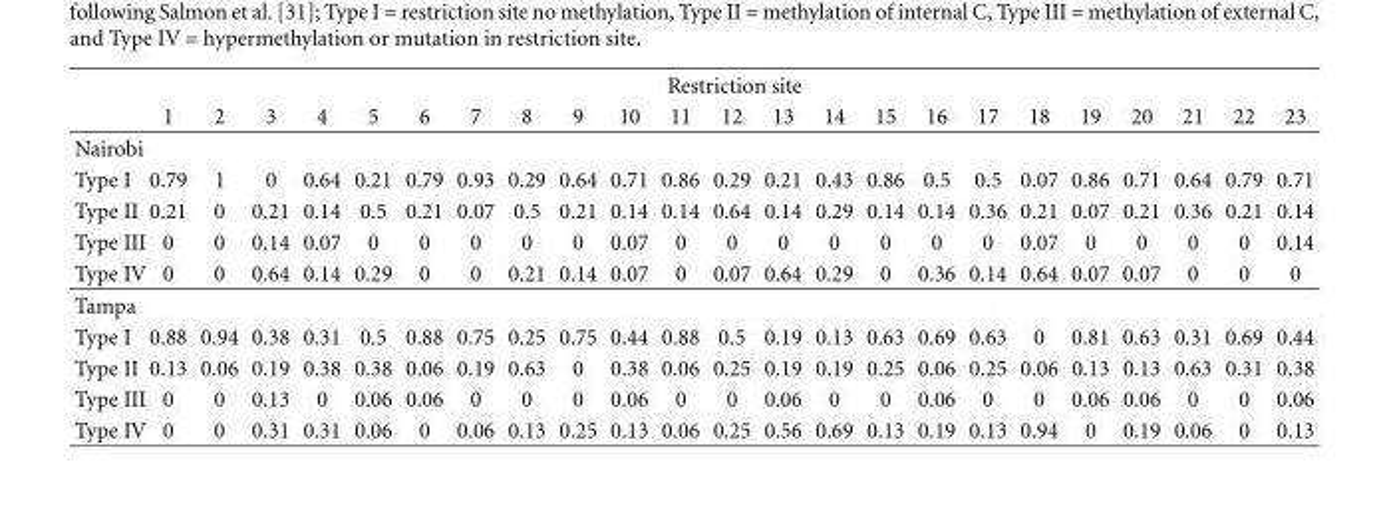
<table><thead><tr><td rowspan="2"></td><td colspan="23">Restriction site</td></tr><tr><td>1</td><td>2</td><td>3</td><td>4</td><td>5</td><td>6</td><td>7</td><td>8</td><td>9</td><td>10</td><td>11</td><td>12</td><td>13</td><td>14</td><td>15</td><td>16</td><td>17</td><td>18</td><td>19</td><td>20</td><td>21</td><td>22</td><td>23</td></tr></thead><tbody><tr><td colspan="24">Nairobi</td></tr><tr><td>Type I</td><td>0.79</td><td>1</td><td>0</td><td>0.64</td><td>0.21</td><td>0.79</td><td>0.93</td><td>0.29</td><td>0.64</td><td>0.71</td><td>0.86</td><td>0.29</td><td>0.21</td><td>0.43</td><td>0.86</td><td>0.5</td><td>0.5</td><td>0.07</td><td>0.86</td><td>0.71</td><td>0.64</td><td>0.79</td><td>0.71</td></tr><tr><td>Type II</td><td>0.21</td><td>0</td><td>0.21</td><td>0.14</td><td>0.5</td><td>0.21</td><td>0.07</td><td>0.5</td><td>0.21</td><td>0.14</td><td>0.14</td><td>0.64</td><td>0.14</td><td>0.29</td><td>0.14</td><td>0.14</td><td>0.36</td><td>0.21</td><td>0.07</td><td>0.21</td><td>0.36</td><td>0.21</td><td>0.14</td></tr><tr><td>Type III</td><td>0</td><td>0</td><td>0.14</td><td>0.07</td><td>0</td><td>0</td><td>0</td><td>0</td><td>0</td><td>0.07</td><td>0</td><td>0</td><td>0</td><td>0</td><td>0</td><td>0</td><td>0</td><td>0.07</td><td>0</td><td>0</td><td>0</td><td>0</td><td>0.14</td></tr><tr><td>Type IV</td><td>0</td><td>0</td><td>0.64</td><td>0.14</td><td>0.29</td><td>0</td><td>0</td><td>0.21</td><td>0.14</td><td>0.07</td><td>0</td><td>0.07</td><td>0.64</td><td>0.29</td><td>0</td><td>0.36</td><td>0.14</td><td>0.64</td><td>0.07</td><td>0.07</td><td>0</td><td>0</td><td>0</td></tr><tr><td colspan="24">Tampa</td></tr><tr><td>Type I</td><td>0.88</td><td>0.94</td><td>0.38</td><td>0.31</td><td>0.5</td><td>0.88</td><td>0.75</td><td>0.25</td><td>0.75</td><td>0.44</td><td>0.88</td><td>0.5</td><td>0.19</td><td>0.13</td><td>0.63</td><td>0.69</td><td>0.63</td><td>0</td><td>0.81</td><td>0.63</td><td>0.31</td><td>0.69</td><td>0.44</td></tr><tr><td>Type II</td><td>0.13</td><td>0.06</td><td>0.19</td><td>0.38</td><td>0.38</td><td>0.06</td><td>0.19</td><td>0.63</td><td>0</td><td>0.38</td><td>0.06</td><td>0.25</td><td>0.19</td><td>0.19</td><td>0.25</td><td>0.06</td><td>0.25</td><td>0.06</td><td>0.13</td><td>0.13</td><td>0.63</td><td>0.31</td><td>0.38</td></tr><tr><td>Type III</td><td>0</td><td>0</td><td>0.13</td><td>0</td><td>0.06</td><td>0.06</td><td>0</td><td>0</td><td>0</td><td>0.06</td><td>0</td><td>0</td><td>0.06</td><td>0</td><td>0</td><td>0.06</td><td>0</td><td>0</td><td>0.06</td><td>0.06</td><td>0</td><td>0</td><td>0.06</td></tr><tr><td>Type IV</td><td>0</td><td>0</td><td>0.31</td><td>0.31</td><td>0.06</td><td>0</td><td>0.06</td><td>0.13</td><td>0.25</td><td>0.13</td><td>0.06</td><td>0.25</td><td>0.56</td><td>0.69</td><td>0.13</td><td>0.19</td><td>0.13</td><td>0.94</td><td>0</td><td>0.19</td><td>0.06</td><td>0</td><td>0.13</td></tr></tbody></table>